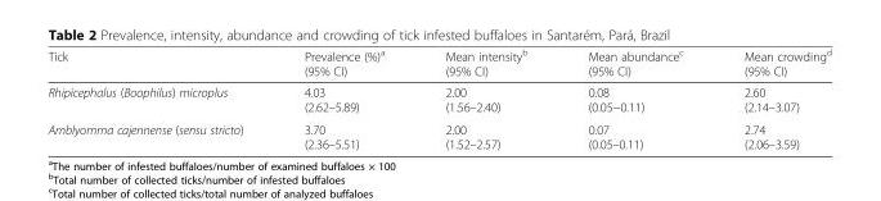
<table><thead><tr><td>Tick</td><td>Prevalence (%)<sup>a</sup> (95% CI)</td><td>Mean intensity<sup>b</sup> (95% CI)</td><td>Mean abundance<sup>c</sup> (95% CI)</td><td>Mean crowding<sup>d</sup> (95% CI)</td></tr></thead><tbody><tr><td>Rhipicephalus (Boophilus) microplus</td><td>4.03 (2.62–5.89)</td><td>2.00 (1.56–2.40)</td><td>0.08 (0.05−0.11)</td><td>2.60 (2.14–3.07)</td></tr><tr><td>Amblyomma cajennense (sensu stricto)</td><td>3.70 (2.36–5.51)</td><td>2.00 (1.52–2.57)</td><td>0.07 (0.05–0.11)</td><td>2.74 (2.06–3.59)</td></tr></tbody></table>